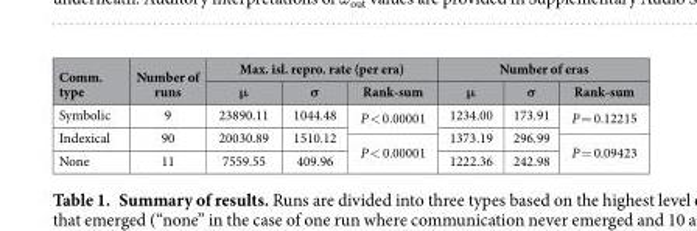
<table><thead><tr><td rowspan="2">Comm. type</td><td rowspan="2">Number of runs</td><td colspan="3">Max. isl. repro. rate (per era)</td><td colspan="3">Number of eras</td></tr><tr><td>μ</td><td>σ</td><td>Rank-sum</td><td>μ</td><td>σ</td><td>Rank-sum</td></tr></thead><tbody><tr><td>Symbolic</td><td>9</td><td>23890.11</td><td>1044.48</td><td>P &lt; 0.00001</td><td>1234.00</td><td>173.91</td><td>P = 0.12215</td></tr><tr><td>Indexical</td><td>90</td><td>20030.89</td><td>1510.12</td><td rowspan="2">P &lt; 0.00001</td><td>1373.19</td><td>296.99</td><td rowspan="2">P = 0.09423</td></tr><tr><td>None</td><td>11</td><td>7559.55</td><td>409.96</td><td>1222.36</td><td>242.98</td></tr></tbody></table>